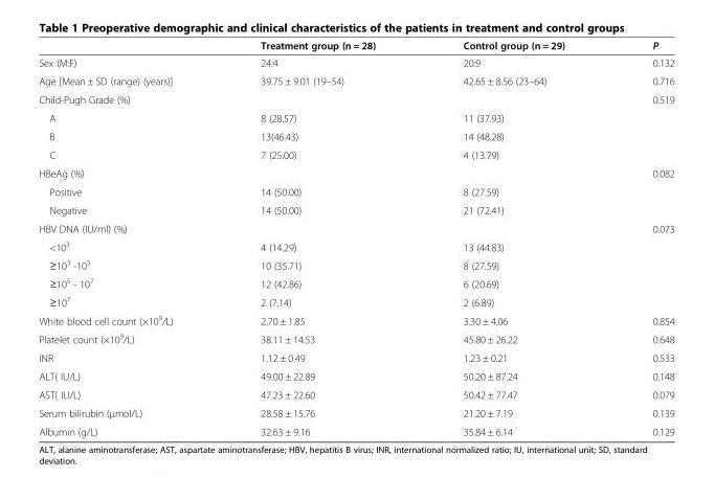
<table><thead><tr><td></td><td>Treatment group (n = 28)</td><td>Control group (n = 29)</td><td>P</td></tr></thead><tbody><tr><td>Sex (M:F)</td><td>24:4</td><td>20:9</td><td>0.132</td></tr><tr><td>Age [Mean ± SD (range) (years)]</td><td>39.75 ± 9.01 (19–54)</td><td>42.65 ± 8.56 (23–64)</td><td>0.716</td></tr><tr><td>Child-Pugh Grade (%)</td><td></td><td></td><td>0.519</td></tr><tr><td>A</td><td>8 (28.57)</td><td>11 (37.93)</td><td></td></tr><tr><td>B</td><td>13(46.43)</td><td>14 (48.28)</td><td></td></tr><tr><td>C</td><td>7 (25.00)</td><td>4 (13.79)</td><td></td></tr><tr><td>HBeAg (%)</td><td></td><td></td><td>0.082</td></tr><tr><td>Positive</td><td>14 (50.00)</td><td>8 (27.59)</td><td></td></tr><tr><td>Negative</td><td>14 (50.00)</td><td>21 (72.41)</td><td></td></tr><tr><td>HBV DNA (IU/ml) (%)</td><td></td><td></td><td>0.073</td></tr><tr><td>&lt;10<sup>3</sup></td><td>4 (14.29)</td><td>13 (44.83)</td><td></td></tr><tr><td>≥10<sup>3</sup> -10<sup>5</sup></td><td>10 (35.71)</td><td>8 (27.59)</td><td></td></tr><tr><td>≥10<sup>5</sup> - 10<sup>7</sup></td><td>12 (42.86)</td><td>6 (20.69)</td><td></td></tr><tr><td>≥10<sup>7</sup></td><td>2 (7.14)</td><td>2 (6.89)</td><td></td></tr><tr><td>White blood cell count (×10<sup>9</sup>/L)</td><td>2.70 ± 1.85</td><td>3.30 ± 4.06</td><td>0.854</td></tr><tr><td>Platelet count (×10<sup>9</sup>/L)</td><td>38.11 ± 14.53</td><td>45.80 ± 26.22</td><td>0.648</td></tr><tr><td>INR</td><td>1.12 ± 0.49</td><td>1.23 ± 0.21</td><td>0.533</td></tr><tr><td>ALT( IU/L)</td><td>49.00 ± 22.89</td><td>50.20 ± 87.24</td><td>0.148</td></tr><tr><td>AST( IU/L)</td><td>47.23 ± 22.60</td><td>50.42 ± 77.47</td><td>0.079</td></tr><tr><td>Serum bilirubin (μmol/L)</td><td>28.58 ± 15.76</td><td>21.20 ± 7.19</td><td>0.139</td></tr><tr><td>Albumin (g/L)</td><td>32.63 ± 9.16</td><td>35.84 ± 6.14</td><td>0.129</td></tr></tbody></table>